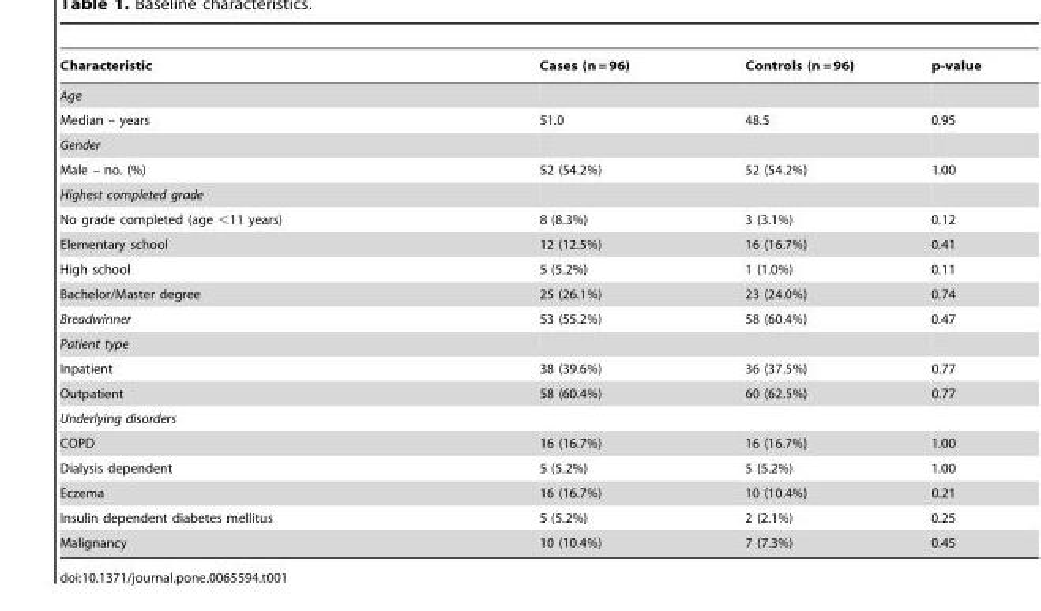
<table><thead><tr><td>Characteristic</td><td>Cases (n = 96)</td><td>Controls (n = 96)</td><td>p-value</td></tr></thead><tbody><tr><td colspan="4">Age</td></tr><tr><td>Median – years</td><td>51.0</td><td>48.5</td><td>0.95</td></tr><tr><td colspan="4">Gender</td></tr><tr><td>Male – no. (%)</td><td>52 (54.2%)</td><td>52 (54.2%)</td><td>1.00</td></tr><tr><td colspan="4">Highest completed grade</td></tr><tr><td>No grade completed (age &lt;11 years)</td><td>8 (8.3%)</td><td>3 (3.1%)</td><td>0.12</td></tr><tr><td>Elementary school</td><td>12 (12.5%)</td><td>16 (16.7%)</td><td>0.41</td></tr><tr><td>High school</td><td>5 (5.2%)</td><td>1 (1.0%)</td><td>0.11</td></tr><tr><td>Bachelor/Master degree</td><td>25 (26.1%)</td><td>23 (24.0%)</td><td>0.74</td></tr><tr><td>Breadwinner</td><td>53 (55.2%)</td><td>58 (60.4%)</td><td>0.47</td></tr><tr><td colspan="4">Patient type</td></tr><tr><td>Inpatient</td><td>38 (39.6%)</td><td>36 (37.5%)</td><td>0.77</td></tr><tr><td>Outpatient</td><td>58 (60.4%)</td><td>60 (62.5%)</td><td>0.77</td></tr><tr><td colspan="4">Underlying disorders</td></tr><tr><td>COPD</td><td>16 (16.7%)</td><td>16 (16.7%)</td><td>1.00</td></tr><tr><td>Dialysis dependent</td><td>5 (5.2%)</td><td>5 (5.2%)</td><td>1.00</td></tr><tr><td>Eczema</td><td>16 (16.7%)</td><td>10 (10.4%)</td><td>0.21</td></tr><tr><td>Insulin dependent diabetes mellitus</td><td>5 (5.2%)</td><td>2 (2.1%)</td><td>0.25</td></tr><tr><td>Malignancy</td><td>10 (10.4%)</td><td>7 (7.3%)</td><td>0.45</td></tr></tbody></table>